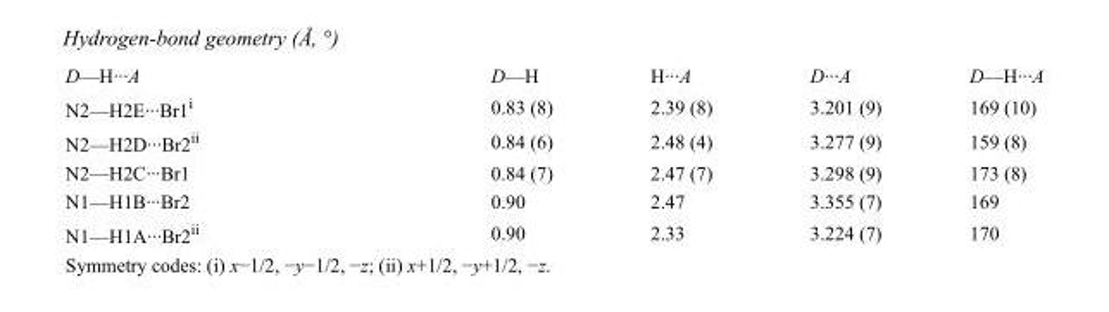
<table><tbody><tr><td>D—H···A</td><td>D—H</td><td>H···A</td><td>D···A</td><td>D—H···A</td></tr><tr><td>N2—H2E···Br1<sup>i</sup></td><td>0.83 (8)</td><td>2.39 (8)</td><td>3.201 (9)</td><td>169 (10)</td></tr><tr><td>N2—H2D···Br2<sup>ii</sup></td><td>0.84 (6)</td><td>2.48 (4)</td><td>3.277 (9)</td><td>159 (8)</td></tr><tr><td>N2—H2C···Br1</td><td>0.84 (7)</td><td>2.47 (7)</td><td>3.298 (9)</td><td>173 (8)</td></tr><tr><td>N1—H1B···Br2</td><td>0.90</td><td>2.47</td><td>3.355 (7)</td><td>169</td></tr><tr><td>N1—H1A···Br2<sup>ii</sup></td><td>0.90</td><td>2.33</td><td>3.224 (7)</td><td>170</td></tr></tbody></table>